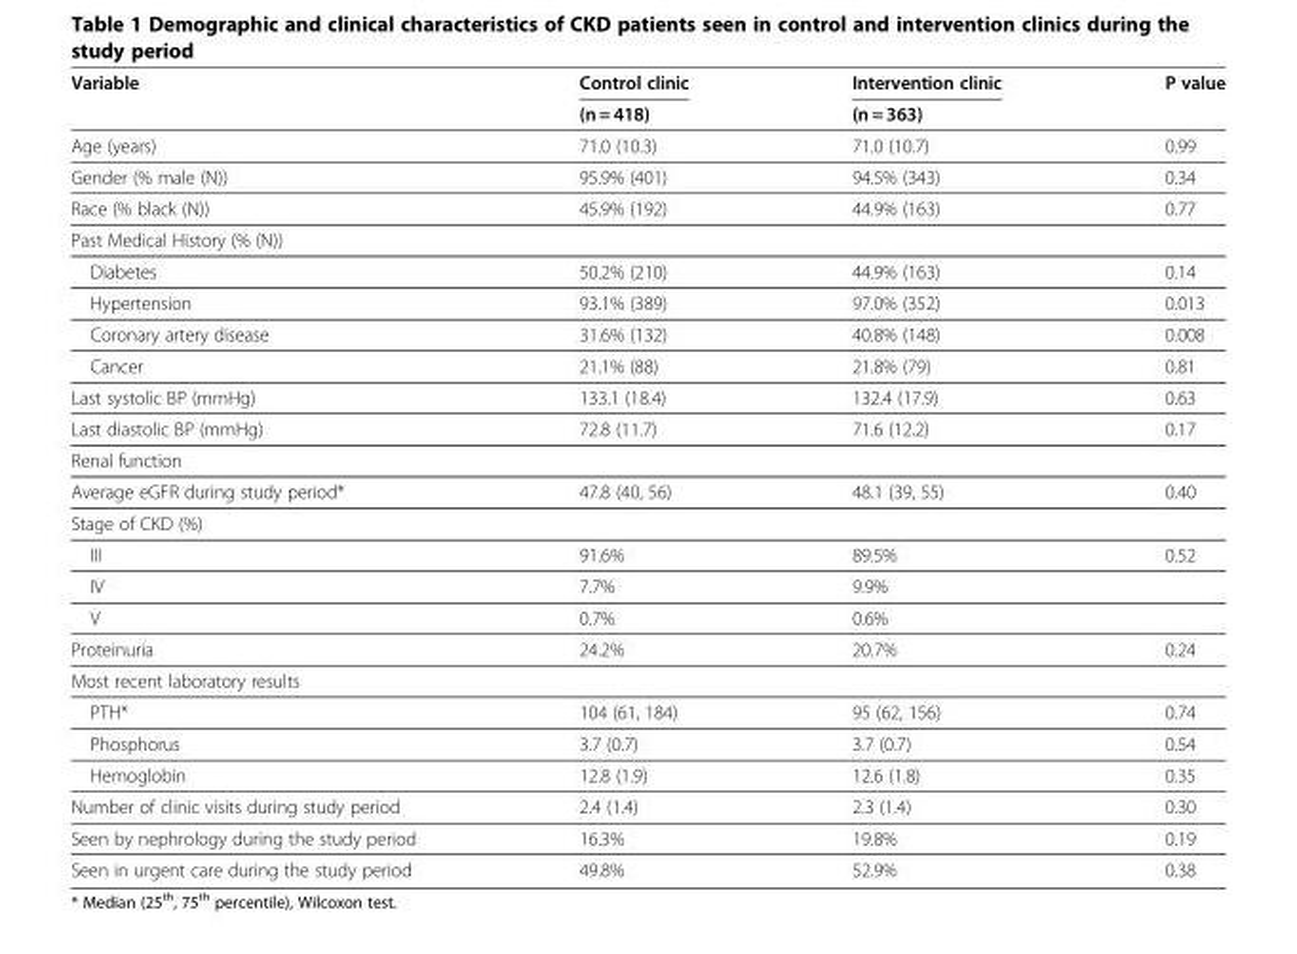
<table><thead><tr><td rowspan="2">Variable</td><td rowspan="2">Control clinic (n = 418)</td><td rowspan="2">Intervention clinic (n = 363)</td><td rowspan="2">P value</td></tr><tr></tr></thead><tbody><tr><td>Age (years)</td><td>71.0 (10.3)</td><td>71.0 (10.7)</td><td>0.99</td></tr><tr><td>Gender (% male (N))</td><td>95.9% (401)</td><td>94.5% (343)</td><td>0.34</td></tr><tr><td>Race (% black (N))</td><td>45.9% (192)</td><td>44.9% (163)</td><td>0.77</td></tr><tr><td colspan="4">Past Medical History (% (N))</td></tr><tr><td>Diabetes</td><td>50.2% (210)</td><td>44.9% (163)</td><td>0.14</td></tr><tr><td>Hypertension</td><td>93.1% (389)</td><td>97.0% (352)</td><td>0.013</td></tr><tr><td>Coronary artery disease</td><td>31.6% (132)</td><td>40.8% (148)</td><td>0.008</td></tr><tr><td>Cancer</td><td>21.1% (88)</td><td>21.8% (79)</td><td>0.81</td></tr><tr><td>Last systolic BP (mmHg)</td><td>133.1 (18.4)</td><td>132.4 (17.9)</td><td>0.63</td></tr><tr><td>Last diastolic BP (mmHg)</td><td>72.8 (11.7)</td><td>71.6 (12.2)</td><td>0.17</td></tr><tr><td colspan="4">Renal function</td></tr><tr><td>Average eGFR during study period*</td><td>47.8 (40, 56)</td><td>48.1 (39, 55)</td><td>0.40</td></tr><tr><td colspan="4">Stage of CKD (%)</td></tr><tr><td>III</td><td>91.6%</td><td>89.5%</td><td>0.52</td></tr><tr><td>IV</td><td>7.7%</td><td>9.9%</td><td></td></tr><tr><td>V</td><td>0.7%</td><td>0.6%</td><td></td></tr><tr><td>Proteinuria</td><td>24.2%</td><td>20.7%</td><td>0.24</td></tr><tr><td colspan="4">Most recent laboratory results</td></tr><tr><td>PTH*</td><td>104 (61, 184)</td><td>95 (62, 156)</td><td>0.74</td></tr><tr><td>Phosphorus</td><td>3.7 (0.7)</td><td>3.7 (0.7)</td><td>0.54</td></tr><tr><td>Hemoglobin</td><td>12.8 (1.9)</td><td>12.6 (1.8)</td><td>0.35</td></tr><tr><td>Number of clinic visits during study period</td><td>2.4 (1.4)</td><td>2.3 (1.4)</td><td>0.30</td></tr><tr><td>Seen by nephrology during the study period</td><td>16.3%</td><td>19.8%</td><td>0.19</td></tr><tr><td>Seen in urgent care during the study period</td><td>49.8%</td><td>52.9%</td><td>0.38</td></tr></tbody></table>